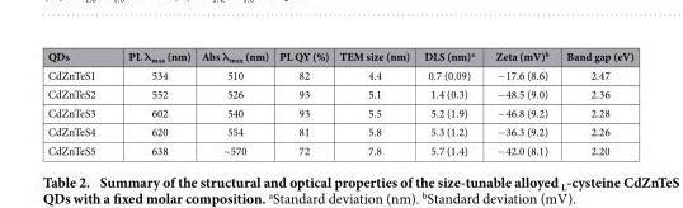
<table><thead><tr><td>QDs</td><td>PL λ<sub>max</sub> (nm)</td><td>Abs λ<sub>max</sub> (nm)</td><td>PL QY (%)</td><td>TEM size (nm)</td><td>DLS (nm)<sup>a</sup></td><td>Zeta (mV)<sup>b</sup></td><td>Band gap (eV)</td></tr></thead><tbody><tr><td>CdZnTeS1</td><td>534</td><td>510</td><td>82</td><td>4.4</td><td>0.7 (0.09)</td><td>− 17.6 (8.6)</td><td>2.47</td></tr><tr><td>CdZnTeS2</td><td>552</td><td>526</td><td>93</td><td>5.1</td><td>1.4 (0.3)</td><td>− 48.5 (9.0)</td><td>2.36</td></tr><tr><td>CdZnTeS3</td><td>602</td><td>540</td><td>93</td><td>5.5</td><td>5.2 (1.9)</td><td>− 46.8 (9.2)</td><td>2.28</td></tr><tr><td>CdZnTeS4</td><td>620</td><td>554</td><td>81</td><td>5.8</td><td>5.3 (1.2)</td><td>− 36.3 (9.2)</td><td>2.26</td></tr><tr><td>CdZnTeS5</td><td>638</td><td>~570</td><td>72</td><td>7.8</td><td>5.7 (1.4)</td><td>− 42.0 (8.1)</td><td>2.20</td></tr></tbody></table>